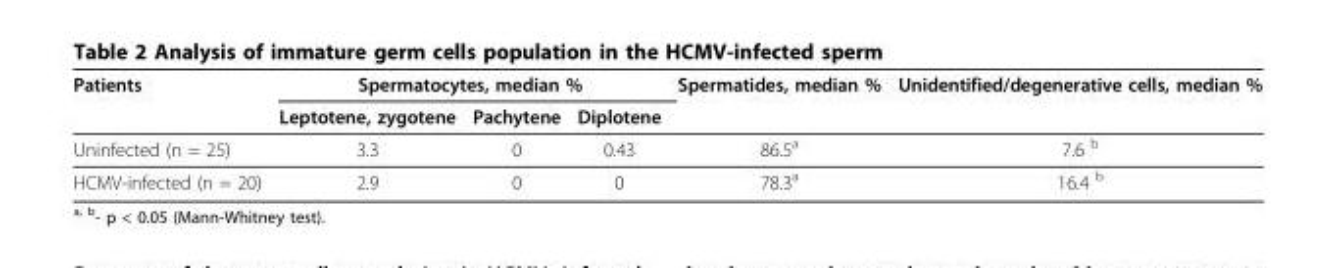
<table><thead><tr><td rowspan="2">Patients</td><td colspan="3">Spermatocytes, median %</td><td rowspan="2">Spermatides, median %</td><td rowspan="2">Unidentified/degenerative cells, median %</td></tr><tr><td>Leptotene, zygotene</td><td>Pachytene</td><td>Diplotene</td></tr></thead><tbody><tr><td>Uninfected (n = 25)</td><td>3.3</td><td>0</td><td>0.43</td><td>86.5<sup>a</sup></td><td>7.6 <sup>b</sup></td></tr><tr><td>HCMV-infected (n = 20)</td><td>2.9</td><td>0</td><td>0</td><td>78.3<sup>a</sup></td><td>16.4 <sup>b</sup></td></tr></tbody></table>